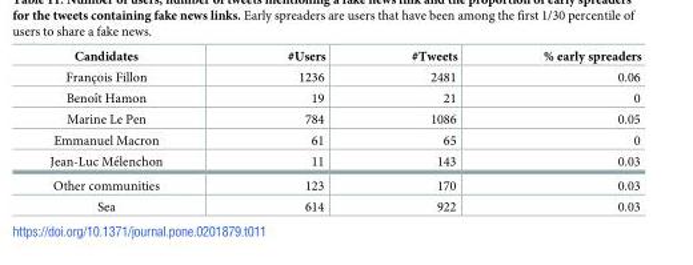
<table><thead><tr><td>Candidates</td><td>#Users</td><td>#Tweets</td><td>% early spreaders</td></tr></thead><tbody><tr><td>Franc¸ois Fillon</td><td>1236</td><td>2481</td><td>0.06</td></tr><tr><td>Benoıˆt Hamon</td><td>19</td><td>21</td><td>0</td></tr><tr><td>Marine Le Pen</td><td>784</td><td>1086</td><td>0.05</td></tr><tr><td>Emmanuel Macron</td><td>61</td><td>65</td><td>0</td></tr><tr><td>Jean-Luc Me´lenchon</td><td>11</td><td>143</td><td>0.03</td></tr><tr><td>Other communities</td><td>123</td><td>170</td><td>0.03</td></tr><tr><td>Sea</td><td>614</td><td>922</td><td>0.03</td></tr></tbody></table>